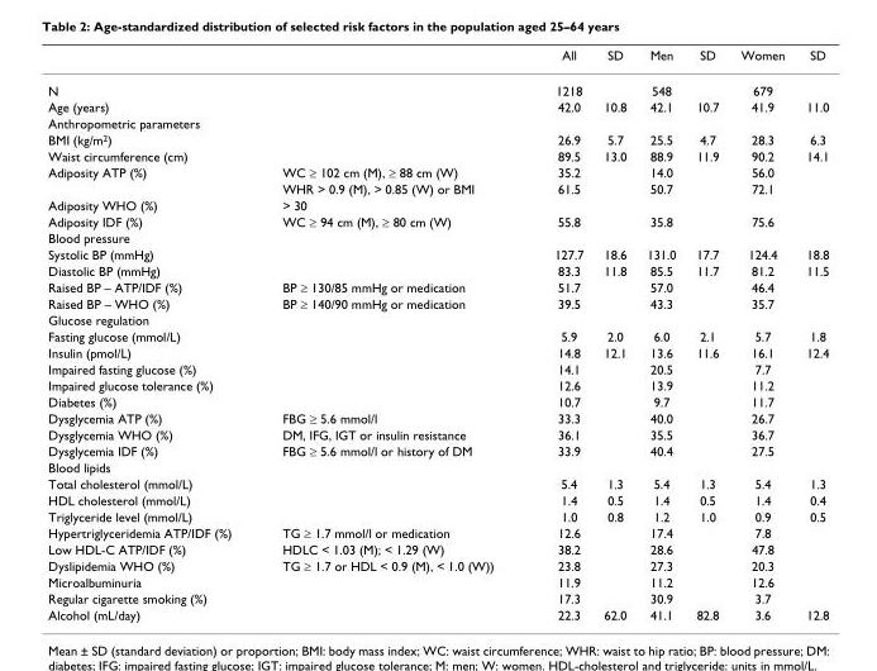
<table><thead><tr><td></td><td></td><td>All</td><td>SD</td><td>Men</td><td>SD</td><td>Women</td><td>SD</td></tr></thead><tbody><tr><td>N</td><td></td><td>1218</td><td></td><td>548</td><td></td><td>679</td><td></td></tr><tr><td>Age (years)</td><td></td><td>42.0</td><td>10.8</td><td>42.1</td><td>10.7</td><td>41.9</td><td>11.0</td></tr><tr><td colspan="8">Anthropometric parameters</td></tr><tr><td>BMI (kg/m<sup>2</sup>)</td><td></td><td>26.9</td><td>5.7</td><td>25.5</td><td>4.7</td><td>28.3</td><td>6.3</td></tr><tr><td>Waist circumference (cm)</td><td></td><td>89.5</td><td>13.0</td><td>88.9</td><td>11.9</td><td>90.2</td><td>14.1</td></tr><tr><td rowspan="2">Adiposity ATP (%)</td><td>WC ≥ 102 cm (M), ≥ 88 cm (W)</td><td>35.2</td><td></td><td>14.0</td><td></td><td>56.0</td><td></td></tr><tr><td>WHR &gt; 0.9 (M), &gt; 0.85 (W) or BMI</td><td>61.5</td><td></td><td>50.7</td><td></td><td>72.1</td><td></td></tr><tr><td>Adiposity WHO (%)</td><td>&gt; 30</td><td></td><td></td><td></td><td></td><td></td><td></td></tr><tr><td>Adiposity IDF (%)</td><td>WC ≥ 94 cm (M), ≥ 80 cm (W)</td><td>55.8</td><td></td><td>35.8</td><td></td><td>75.6</td><td></td></tr><tr><td colspan="8">Blood pressure</td></tr><tr><td>Systolic BP (mmHg)</td><td></td><td>127.7</td><td>18.6</td><td>131.0</td><td>17.7</td><td>124.4</td><td>18.8</td></tr><tr><td>Diastolic BP (mmHg)</td><td></td><td>83.3</td><td>11.8</td><td>85.5</td><td>11.7</td><td>81.2</td><td>11.5</td></tr><tr><td>Raised BP – ATP/IDF (%)</td><td>BP ≥ 130/85 mmHg or medication</td><td>51.7</td><td></td><td>57.0</td><td></td><td>46.4</td><td></td></tr><tr><td>Raised BP – WHO (%)</td><td>BP ≥ 140/90 mmHg or medication</td><td>39.5</td><td></td><td>43.3</td><td></td><td>35.7</td><td></td></tr><tr><td colspan="8">Glucose regulation</td></tr><tr><td>Fasting glucose (mmol/L)</td><td></td><td>5.9</td><td>2.0</td><td>6.0</td><td>2.1</td><td>5.7</td><td>1.8</td></tr><tr><td>Insulin (pmol/L)</td><td></td><td>14.8</td><td>12.1</td><td>13.6</td><td>11.6</td><td>16.1</td><td>12.4</td></tr><tr><td>Impaired fasting glucose (%)</td><td></td><td>14.1</td><td></td><td>20.5</td><td></td><td>7.7</td><td></td></tr><tr><td>Impaired glucose tolerance (%)</td><td></td><td>12.6</td><td></td><td>13.9</td><td></td><td>11.2</td><td></td></tr><tr><td>Diabetes (%)</td><td></td><td>10.7</td><td></td><td>9.7</td><td></td><td>11.7</td><td></td></tr><tr><td>Dysglycemia ATP (%)</td><td>FBG ≥ 5.6 mmol/l</td><td>33.3</td><td></td><td>40.0</td><td></td><td>26.7</td><td></td></tr><tr><td>Dysglycemia WHO (%)</td><td>DM, IFG, IGT or insulin resistance</td><td>36.1</td><td></td><td>35.5</td><td></td><td>36.7</td><td></td></tr><tr><td>Dysglycemia IDF (%)</td><td>FBG ≥ 5.6 mmol/l or history of DM</td><td>33.9</td><td></td><td>40.4</td><td></td><td>27.5</td><td></td></tr><tr><td colspan="8">Blood lipids</td></tr><tr><td>Total cholesterol (mmol/L)</td><td></td><td>5.4</td><td>1.3</td><td>5.4</td><td>1.3</td><td>5.4</td><td>1.3</td></tr><tr><td>HDL cholesterol (mmol/L)</td><td></td><td>1.4</td><td>0.5</td><td>1.4</td><td>0.5</td><td>1.4</td><td>0.4</td></tr><tr><td>Triglyceride level (mmol/L)</td><td></td><td>1.0</td><td>0.8</td><td>1.2</td><td>1.0</td><td>0.9</td><td>0.5</td></tr><tr><td>Hypertriglyceridemia ATP/IDF (%)</td><td>TG ≥ 1.7 mmol/l or medication</td><td>12.6</td><td></td><td>17.4</td><td></td><td>7.8</td><td></td></tr><tr><td>Low HDL-C ATP/IDF (%)</td><td>HDLC &lt; 1.03 (M); &lt; 1.29 (W)</td><td>38.2</td><td></td><td>28.6</td><td></td><td>47.8</td><td></td></tr><tr><td>Dyslipidemia WHO (%)</td><td>TG ≥ 1.7 or HDL &lt; 0.9 (M), &lt; 1.0 (W))</td><td>23.8</td><td></td><td>27.3</td><td></td><td>20.3</td><td></td></tr><tr><td>Microalbuminuria</td><td></td><td>11.9</td><td></td><td>11.2</td><td></td><td>12.6</td><td></td></tr><tr><td>Regular cigarette smoking (%)</td><td></td><td>17.3</td><td></td><td>30.9</td><td></td><td>3.7</td><td></td></tr><tr><td>Alcohol (mL/day)</td><td></td><td>22.3</td><td>62.0</td><td>41.1</td><td>82.8</td><td>3.6</td><td>12.8</td></tr></tbody></table>